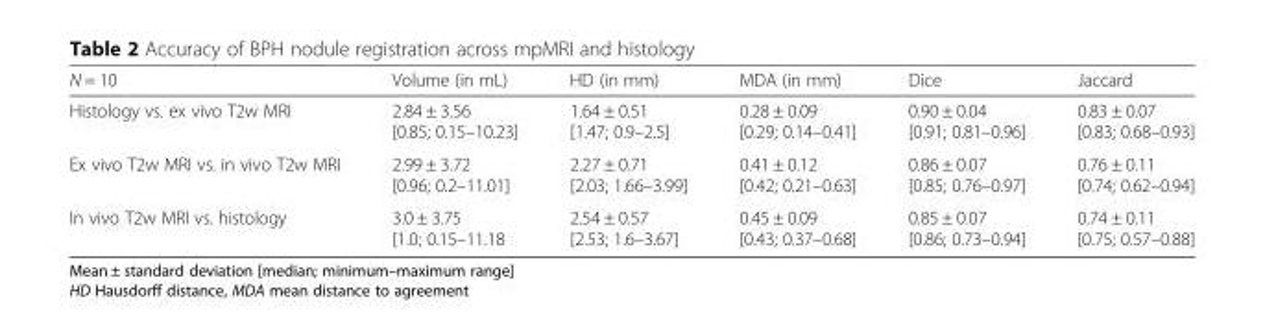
<table><thead><tr><td>N = 10</td><td>Volume (in mL)</td><td>HD (in mm)</td><td>MDA (in mm)</td><td>Dice</td><td>Jaccard</td></tr></thead><tbody><tr><td>Histology vs. ex vivo T2w MRI</td><td>2.84 ± 3.56 [0.85; 0.15–10.23]</td><td>1.64 ± 0.51 [1.47; 0.9–2.5]</td><td>0.28 ± 0.09 [0.29; 0.14–0.41]</td><td>0.90 ± 0.04 [0.91; 0.81–0.96]</td><td>0.83 ± 0.07 [0.83; 0.68–0.93]</td></tr><tr><td>Ex vivo T2w MRI vs. in vivo T2w MRI</td><td>2.99 ± 3.72 [0.96; 0.2–11.01]</td><td>2.27 ± 0.71 [2.03; 1.66–3.99]</td><td>0.41 ± 0.12 [0.42; 0.21–0.63]</td><td>0.86 ± 0.07 [0.85; 0.76–0.97]</td><td>0.76 ± 0.11 [0.74; 0.62–0.94]</td></tr><tr><td>In vivo T2w MRI vs. histology</td><td>3.0 ± 3.75 [1.0; 0.15–11.18</td><td>2.54 ± 0.57 [2.53; 1.6–3.67]</td><td>0.45 ± 0.09 [0.43; 0.37–0.68]</td><td>0.85 ± 0.07 [0.86; 0.73–0.94]</td><td>0.74 ± 0.11 [0.75; 0.57–0.88]</td></tr></tbody></table>